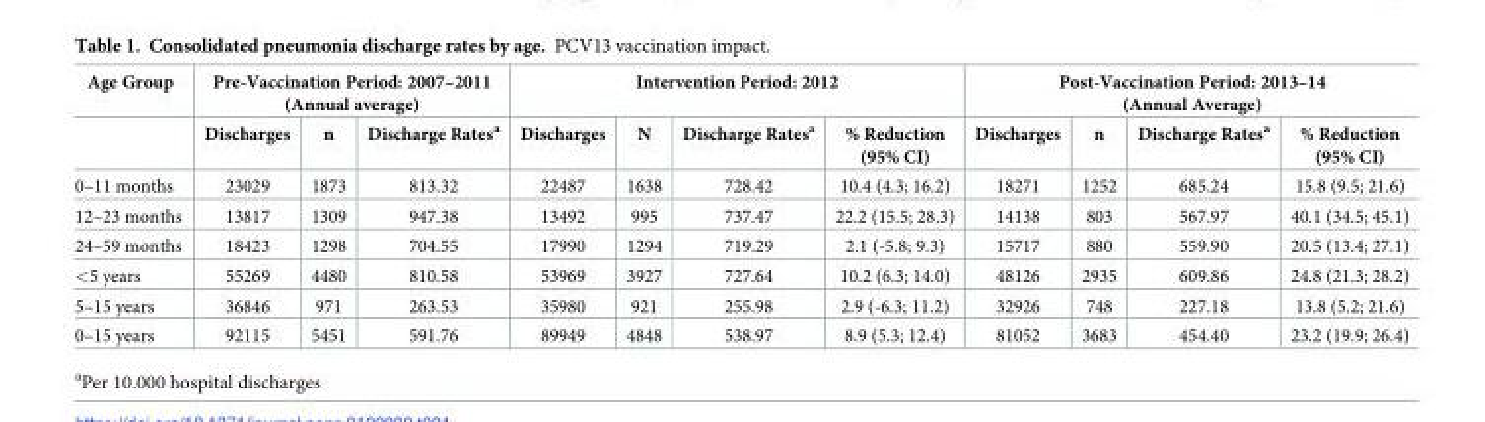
<table><thead><tr><td rowspan="2">Age Group</td><td colspan="3">Pre-Vaccination Period: 2007–2011 (Annual average)</td><td colspan="4">Intervention Period: 2012</td><td colspan="4">Post-Vaccination Period: 2013–14 (Annual Average)</td></tr><tr><td>Discharges</td><td>n</td><td>Discharge Rates<sup>a</sup></td><td>Discharges</td><td>N</td><td>Discharge Rates<sup>a</sup></td><td>% Reduction (95% CI)</td><td>Discharges</td><td>n</td><td>Discharge Rates<sup>a</sup></td><td>% Reduction (95% CI)</td></tr></thead><tbody><tr><td>0–11 months</td><td>23029</td><td>1873</td><td>813.32</td><td>22487</td><td>1638</td><td>728.42</td><td>10.4 (4.3; 16.2)</td><td>18271</td><td>1252</td><td>685.24</td><td>15.8 (9.5; 21.6)</td></tr><tr><td>12–23 months</td><td>13817</td><td>1309</td><td>947.38</td><td>13492</td><td>995</td><td>737.47</td><td>22.2 (15.5; 28.3)</td><td>14138</td><td>803</td><td>567.97</td><td>40.1 (34.5; 45.1)</td></tr><tr><td>24–59 months</td><td>18423</td><td>1298</td><td>704.55</td><td>17990</td><td>1294</td><td>719.29</td><td>2.1 (-5.8; 9.3)</td><td>15717</td><td>880</td><td>559.90</td><td>20.5 (13.4; 27.1)</td></tr><tr><td>&lt;5 years</td><td>55269</td><td>4480</td><td>810.58</td><td>53969</td><td>3927</td><td>727.64</td><td>10.2 (6.3; 14.0)</td><td>48126</td><td>2935</td><td>609.86</td><td>24.8 (21.3; 28.2)</td></tr><tr><td>5–15 years</td><td>36846</td><td>971</td><td>263.53</td><td>35980</td><td>921</td><td>255.98</td><td>2.9 (-6.3; 11.2)</td><td>32926</td><td>748</td><td>227.18</td><td>13.8 (5.2; 21.6)</td></tr><tr><td>0–15 years</td><td>92115</td><td>5451</td><td>591.76</td><td>89949</td><td>4848</td><td>538.97</td><td>8.9 (5.3; 12.4)</td><td>81052</td><td>3683</td><td>454.40</td><td>23.2 (19.9; 26.4)</td></tr></tbody></table>